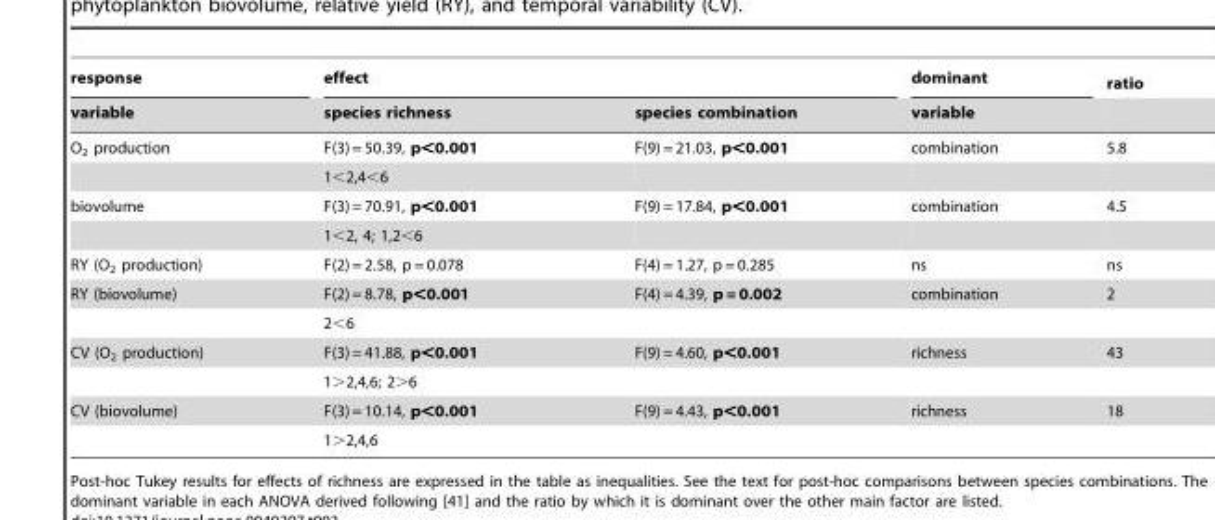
<table><thead><tr><td rowspan="2">response variable</td><td colspan="2">effect</td><td rowspan="2">dominant variable</td><td rowspan="2">ratio</td></tr><tr><td>species richness</td><td>species combination</td></tr></thead><tbody><tr><td rowspan="2">O<sub>2</sub> production</td><td>F(3) = 50.39, p&lt;0.001</td><td>F(9) = 21.03, p&lt;0.001</td><td>combination</td><td>5.8</td></tr><tr><td>1&lt;2,4&lt;6</td><td></td><td></td><td></td></tr><tr><td rowspan="2">biovolume</td><td>F(3) = 70.91, p&lt;0.001</td><td>F(9) = 17.84, p&lt;0.001</td><td>combination</td><td>4.5</td></tr><tr><td>1&lt;2, 4; 1,2&lt;6</td><td></td><td></td><td></td></tr><tr><td>RY (O<sub>2</sub> production)</td><td>F(2) = 2.58, p = 0.078</td><td>F(4) = 1.27, p = 0.285</td><td>ns</td><td>ns</td></tr><tr><td rowspan="2">RY (biovolume)</td><td>F(2) = 8.78, p&lt;0.001</td><td>F(4) = 4.39, p = 0.002</td><td>combination</td><td>2</td></tr><tr><td>2&lt;6</td><td></td><td></td><td></td></tr><tr><td rowspan="2">CV (O<sub>2</sub> production)</td><td>F(3) = 41.88, p&lt;0.001</td><td>F(9) = 4.60, p&lt;0.001</td><td>richness</td><td>43</td></tr><tr><td>1&gt;2,4,6; 2&gt;6</td><td></td><td></td><td></td></tr><tr><td rowspan="2">CV (biovolume)</td><td>F(3) = 10.14, p&lt;0.001</td><td>F(9) = 4.43, p&lt;0.001</td><td>richness</td><td>18</td></tr><tr><td>1&gt;2,4,6</td><td></td><td></td><td></td></tr></tbody></table>